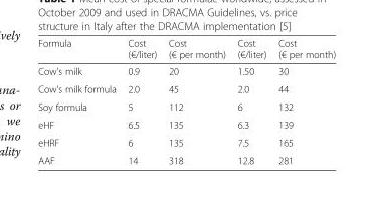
<table><thead><tr><td>Formula</td><td>Cost (€/liter)</td><td>Cost (€ per month)</td><td>Cost (€/liter)</td><td>Cost (€ per month)</td></tr></thead><tbody><tr><td>Cow’s milk</td><td>0.9</td><td>20</td><td>1.50</td><td>30</td></tr><tr><td>Cow’s milk formula</td><td>2.0</td><td>45</td><td>2.0</td><td>44</td></tr><tr><td>Soy formula</td><td>5</td><td>112</td><td>6</td><td>132</td></tr><tr><td>eHF</td><td>6.5</td><td>135</td><td>6.3</td><td>139</td></tr><tr><td>eHRF</td><td>6</td><td>135</td><td>7.5</td><td>165</td></tr><tr><td>AAF</td><td>14</td><td>318</td><td>12.8</td><td>281</td></tr></tbody></table>